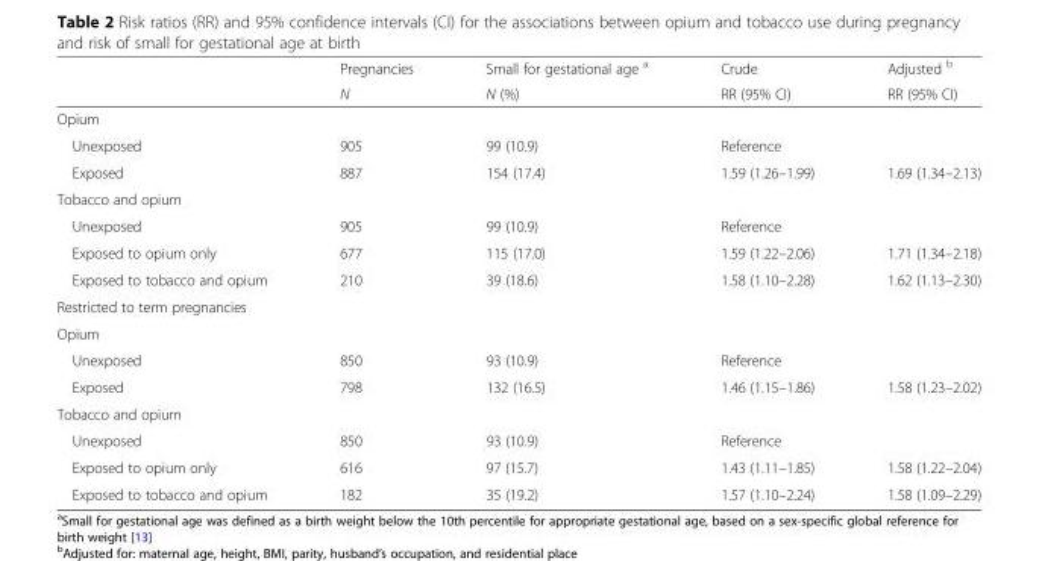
<table><thead><tr><td rowspan="2"></td><td rowspan="2">Pregnancies N</td><td rowspan="2">Small for gestational age <sup>a</sup> N (%)</td><td rowspan="2">Crude RR (95% CI)</td><td rowspan="2">Adjusted <sup>b</sup> RR (95% CI)</td></tr><tr></tr></thead><tbody><tr><td colspan="5">Opium</td></tr><tr><td>Unexposed</td><td>905</td><td>99 (10.9)</td><td colspan="2">Reference</td></tr><tr><td>Exposed</td><td>887</td><td>154 (17.4)</td><td>1.59 (1.26–1.99)</td><td>1.69 (1.34–2.13)</td></tr><tr><td colspan="5">Tobacco and opium</td></tr><tr><td>Unexposed</td><td>905</td><td>99 (10.9)</td><td colspan="2">Reference</td></tr><tr><td>Exposed to opium only</td><td>677</td><td>115 (17.0)</td><td>1.59 (1.22–2.06)</td><td>1.71 (1.34–2.18)</td></tr><tr><td>Exposed to tobacco and opium</td><td>210</td><td>39 (18.6)</td><td>1.58 (1.10–2.28)</td><td>1.62 (1.13–2.30)</td></tr><tr><td colspan="5">Restricted to term pregnancies</td></tr><tr><td colspan="5">Opium</td></tr><tr><td>Unexposed</td><td>850</td><td>93 (10.9)</td><td colspan="2">Reference</td></tr><tr><td>Exposed</td><td>798</td><td>132 (16.5)</td><td>1.46 (1.15–1.86)</td><td>1.58 (1.23–2.02)</td></tr><tr><td colspan="5">Tobacco and opium</td></tr><tr><td>Unexposed</td><td>850</td><td>93 (10.9)</td><td colspan="2">Reference</td></tr><tr><td>Exposed to opium only</td><td>616</td><td>97 (15.7)</td><td>1.43 (1.11–1.85)</td><td>1.58 (1.22–2.04)</td></tr><tr><td>Exposed to tobacco and opium</td><td>182</td><td>35 (19.2)</td><td>1.57 (1.10–2.24)</td><td>1.58 (1.09–2.29)</td></tr></tbody></table>